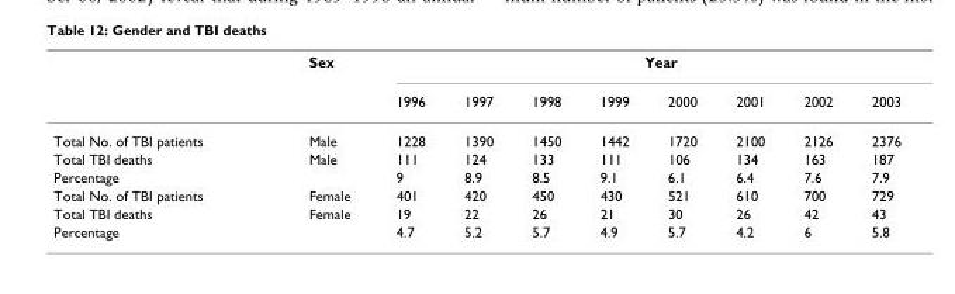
<table><thead><tr><td rowspan="2"></td><td rowspan="2">Sex</td><td colspan="8">Year</td></tr><tr><td>1996</td><td>1997</td><td>1998</td><td>1999</td><td>2000</td><td>2001</td><td>2002</td><td>2003</td></tr></thead><tbody><tr><td>Total No. of TBI patients</td><td>Male</td><td>1228</td><td>1390</td><td>1450</td><td>1442</td><td>1720</td><td>2100</td><td>2126</td><td>2376</td></tr><tr><td>Total TBI deaths</td><td>Male</td><td>111</td><td>124</td><td>133</td><td>111</td><td>106</td><td>134</td><td>163</td><td>187</td></tr><tr><td>Percentage</td><td></td><td>9</td><td>8.9</td><td>8.5</td><td>9.1</td><td>6.1</td><td>6.4</td><td>7.6</td><td>7.9</td></tr><tr><td>Total No. of TBI patients</td><td>Female</td><td>401</td><td>420</td><td>450</td><td>430</td><td>521</td><td>610</td><td>700</td><td>729</td></tr><tr><td>Total TBI deaths</td><td>Female</td><td>19</td><td>22</td><td>26</td><td>21</td><td>30</td><td>26</td><td>42</td><td>43</td></tr><tr><td>Percentage</td><td></td><td>4.7</td><td>5.2</td><td>5.7</td><td>4.9</td><td>5.7</td><td>4.2</td><td>6</td><td>5.8</td></tr></tbody></table>